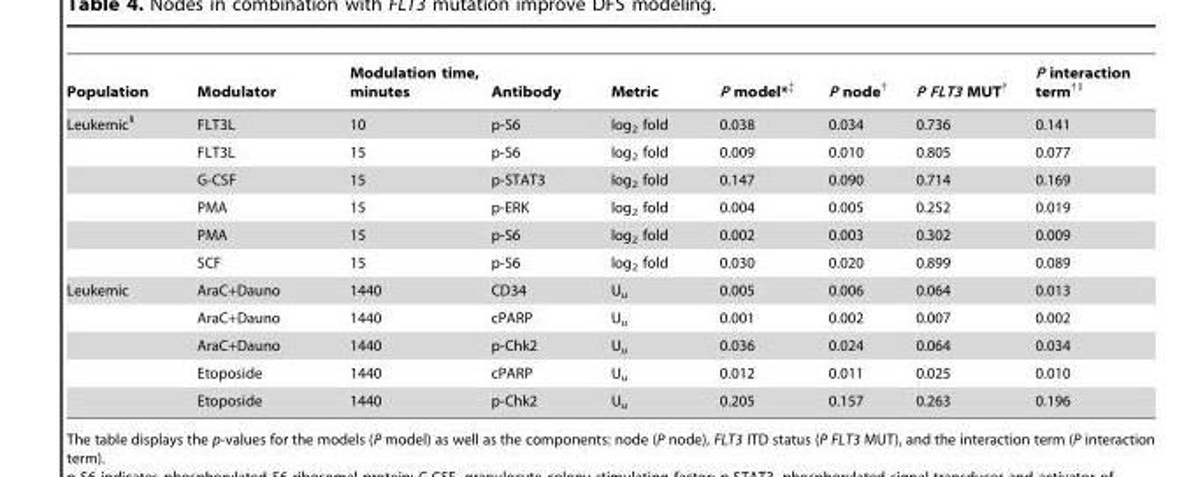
<table><thead><tr><td>Population</td><td>Modulator</td><td>Modulation time, minutes</td><td>Antibody</td><td>Metric</td><td>P model*‡</td><td>P node†</td><td>P FLT3 MUT†</td><td>P interaction term†∥</td></tr></thead><tbody><tr><td rowspan="6">Leukemic§</td><td>FLT3L</td><td>10</td><td>p-S6</td><td>log<sub>2</sub> fold</td><td>0.038</td><td>0.034</td><td>0.736</td><td>0.141</td></tr><tr><td>FLT3L</td><td>15</td><td>p-S6</td><td>log<sub>2</sub> fold</td><td>0.009</td><td>0.010</td><td>0.805</td><td>0.077</td></tr><tr><td>G-CSF</td><td>15</td><td>p-STAT3</td><td>log<sub>2</sub> fold</td><td>0.147</td><td>0.090</td><td>0.714</td><td>0.169</td></tr><tr><td>PMA</td><td>15</td><td>p-ERK</td><td>log<sub>2</sub> fold</td><td>0.004</td><td>0.005</td><td>0.252</td><td>0.019</td></tr><tr><td>PMA</td><td>15</td><td>p-S6</td><td>log<sub>2</sub> fold</td><td>0.002</td><td>0.003</td><td>0.302</td><td>0.009</td></tr><tr><td>SCF</td><td>15</td><td>p-S6</td><td>log<sub>2</sub> fold</td><td>0.030</td><td>0.020</td><td>0.899</td><td>0.089</td></tr><tr><td rowspan="5">Leukemic</td><td>AraC+Dauno</td><td>1440</td><td>CD34</td><td>U<sub>u</sub></td><td>0.005</td><td>0.006</td><td>0.064</td><td>0.013</td></tr><tr><td>AraC+Dauno</td><td>1440</td><td>cPARP</td><td>U<sub>u</sub></td><td>0.001</td><td>0.002</td><td>0.007</td><td>0.002</td></tr><tr><td>AraC+Dauno</td><td>1440</td><td>p-Chk2</td><td>U<sub>u</sub></td><td>0.036</td><td>0.024</td><td>0.064</td><td>0.034</td></tr><tr><td>Etoposide</td><td>1440</td><td>cPARP</td><td>U<sub>u</sub></td><td>0.012</td><td>0.011</td><td>0.025</td><td>0.010</td></tr><tr><td>Etoposide</td><td>1440</td><td>p-Chk2</td><td>U<sub>u</sub></td><td>0.205</td><td>0.157</td><td>0.263</td><td>0.196</td></tr></tbody></table>